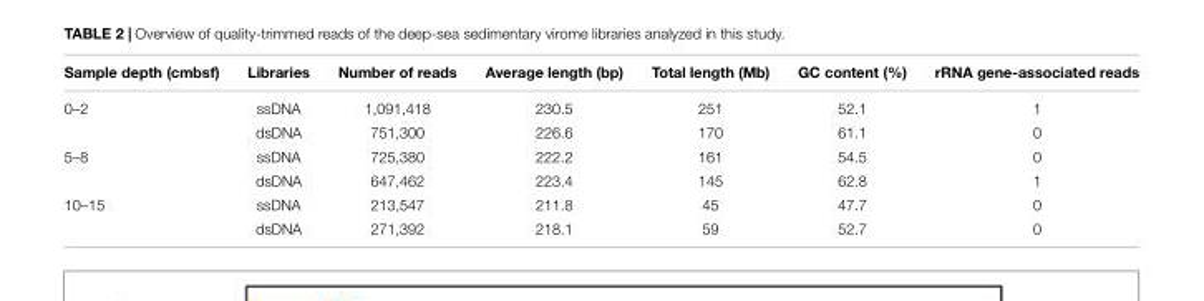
<table><thead><tr><td>Sample depth (cmbsf)</td><td>Libraries</td><td>Number of reads</td><td>Average length (bp)</td><td>Total length (Mb)</td><td>GC content (%)</td><td>rRNA gene-associated reads</td></tr></thead><tbody><tr><td rowspan="2">0–2</td><td>ssDNA</td><td>1,091,418</td><td>230.5</td><td>251</td><td>52.1</td><td>1</td></tr><tr><td>dsDNA</td><td>751,300</td><td>226.6</td><td>170</td><td>61.1</td><td>0</td></tr><tr><td rowspan="2">5–8</td><td>ssDNA</td><td>725,380</td><td>222.2</td><td>161</td><td>54.5</td><td>0</td></tr><tr><td>dsDNA</td><td>647,462</td><td>223.4</td><td>145</td><td>62.8</td><td>1</td></tr><tr><td rowspan="2">10–15</td><td>ssDNA</td><td>213,547</td><td>211.8</td><td>45</td><td>47.7</td><td>0</td></tr><tr><td>dsDNA</td><td>271,392</td><td>218.1</td><td>59</td><td>52.7</td><td>0</td></tr></tbody></table>